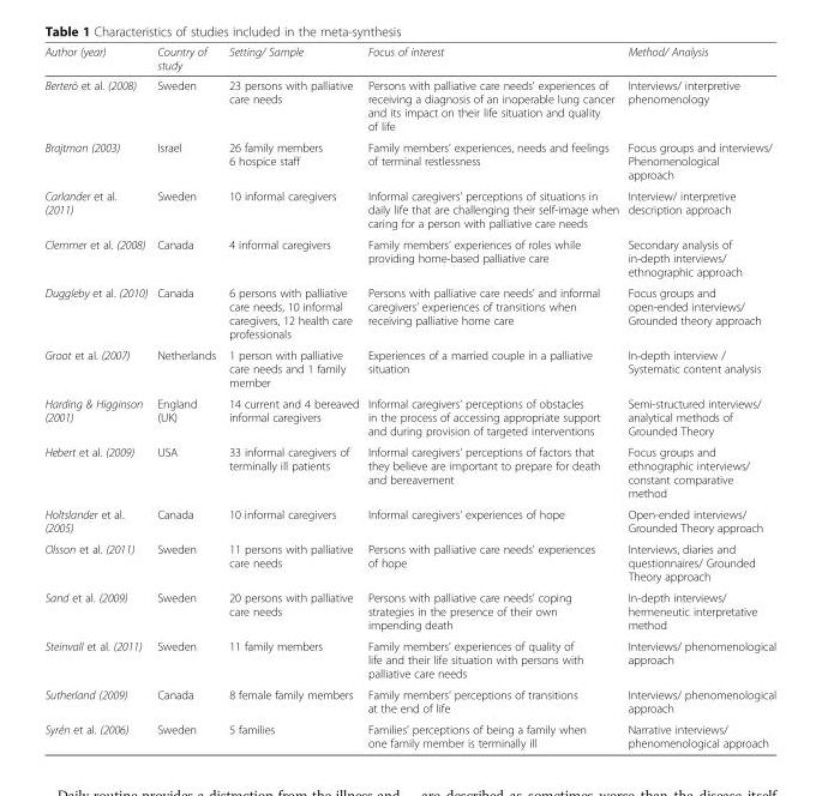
<table><thead><tr><td>Author (year)</td><td>Country of study</td><td>Setting/ Sample</td><td>Focus of interest</td><td>Method/ Analysis</td></tr></thead><tbody><tr><td>Berterö et al. (2008)</td><td>Sweden</td><td>23 persons with palliative care needs</td><td>Persons with palliative care needs’ experiences of receiving a diagnosis of an inoperable lung cancer and its impact on their life situation and quality of life</td><td>Interviews/ interpretive phenomenology</td></tr><tr><td>Brajtman (2003)</td><td>Israel</td><td>26 family members 6 hospice staff</td><td>Family members’ experiences, needs and feelings of terminal restlessness</td><td>Focus groups and interviews/ Phenomenological approach</td></tr><tr><td>Carlander et al. (2011)</td><td>Sweden</td><td>10 informal caregivers</td><td>Informal caregivers’ perceptions of situations in daily life that are challenging their self-image when caring for a person with palliative care needs</td><td>Interview/ interpretive description approach</td></tr><tr><td>Clemmer et al. (2008)</td><td>Canada</td><td>4 informal caregivers</td><td>Family members’ experiences of roles while providing home-based palliative care</td><td>Secondary analysis of in-depth interviews/ ethnographic approach</td></tr><tr><td>Duggleby et al. (2010)</td><td>Canada</td><td>6 persons with palliative care needs, 10 informal caregivers, 12 health care professionals</td><td>Persons with palliative care needs’ and informal caregivers’ experiences of transitions when receiving palliative home care</td><td>Focus groups and open-ended interviews/ Grounded theory approach</td></tr><tr><td>Groot et al. (2007)</td><td>Netherlands</td><td>1 person with palliative care needs and 1 family member</td><td>Experiences of a married couple in a palliative situation</td><td>In-depth interview / Systematic content analysis</td></tr><tr><td>Harding &amp; Higginson (2001)</td><td>England (UK)</td><td>14 current and 4 bereaved informal caregivers</td><td>Informal caregivers’ perceptions of obstacles in the process of accessing appropriate support and during provision of targeted interventions</td><td>Semi-structured interviews/ analytical methods of Grounded Theory</td></tr><tr><td>Hebert et al. (2009)</td><td>USA</td><td>33 informal caregivers of terminally ill patients</td><td>Informal caregivers’ perceptions of factors that they believe are important to prepare for death and bereavement</td><td>Focus groups and ethnographic interviews/ constant comparative method</td></tr><tr><td>Holtslander et al. (2005)</td><td>Canada</td><td>10 informal caregivers</td><td>Informal caregivers’ experiences of hope</td><td>Open-ended interviews/ Grounded Theory approach</td></tr><tr><td>Olsson et al. (2011)</td><td>Sweden</td><td>11 persons with palliative care needs</td><td>Persons with palliative care needs’ experiences of hope</td><td>Interviews, diaries and questionnaires/ Grounded Theory approach</td></tr><tr><td>Sand et al. (2009)</td><td>Sweden</td><td>20 persons with palliative care needs</td><td>Persons with palliative care needs’ coping strategies in the presence of their own impending death</td><td>In-depth interviews/ hermeneutic interpretative method</td></tr><tr><td>Steinvall et al. (2011)</td><td>Sweden</td><td>11 family members</td><td>Family members’ experiences of quality of life and their life situation with persons with palliative care needs</td><td>Interviews/ phenomenological approach</td></tr><tr><td>Sutherland (2009)</td><td>Canada</td><td>8 female family members</td><td>Family members’ perceptions of transitions at the end of life</td><td>Interviews/ phenomenological approach</td></tr><tr><td>Syrén et al. (2006)</td><td>Sweden</td><td>5 families</td><td>Families’ perceptions of being a family when one family member is terminally ill</td><td>Narrative interviews/ phenomenological approach</td></tr></tbody></table>